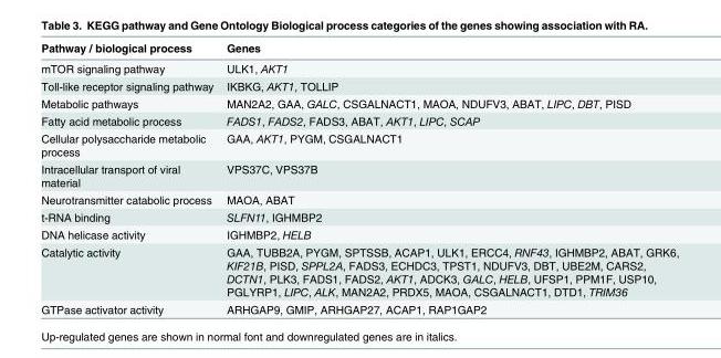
<table><thead><tr><td>Pathway / biological process</td><td>Genes</td></tr></thead><tbody><tr><td>mTOR signaling pathway</td><td>ULK1, AKT1</td></tr><tr><td>Toll-like receptor signaling pathway</td><td>IKBKG, AKT1, TOLLIP</td></tr><tr><td>Metabolic pathways</td><td>MAN2A2, GAA, GALC, CSGALNACT1, MAOA, NDUFV3, ABAT, LIPC, DBT, PISD</td></tr><tr><td>Fatty acid metabolic process</td><td>FADS1, FADS2, FADS3, ABAT, AKT1, LIPC, SCAP</td></tr><tr><td>Cellular polysaccharide metabolic process</td><td>GAA, AKT1, PYGM, CSGALNACT1</td></tr><tr><td>Intracellular transport of viral material</td><td>VPS37C, VPS37B</td></tr><tr><td>Neurotransmitter catabolic process</td><td>MAOA, ABAT</td></tr><tr><td>t-RNA binding</td><td>SLFN11, IGHMBP2</td></tr><tr><td>DNA helicase activity</td><td>IGHMBP2, HELB</td></tr><tr><td>Catalytic activity</td><td>GAA, TUBB2A, PYGM, SPTSSB, ACAP1, ULK1, ERCC4, RNF43, IGHMBP2, ABAT, GRK6, KIF21B, PISD, SPPL2A, FADS3, ECHDC3, TPST1, NDUFV3, DBT, UBE2M, CARS2, DCTN1, PLK3, FADS1, FADS2, AKT1, ADCK3, GALC, HELB, UFSP1, PPM1F, USP10, PGLYRP1, LIPC, ALK, MAN2A2, PRDX5, MAOA, CSGALNACT1, DTD1, TRIM36</td></tr><tr><td>GTPase activator activity</td><td>ARHGAP9, GMIP, ARHGAP27, ACAP1, RAP1GAP2</td></tr></tbody></table>